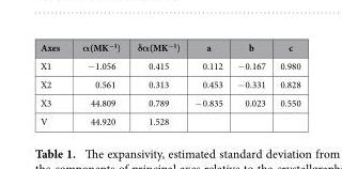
<table><thead><tr><td>Axes</td><td>α(MK<sup>−1</sup>)</td><td>δα(MK<sup>−1</sup>)</td><td>a</td><td>b</td><td>c</td></tr></thead><tbody><tr><td>X1</td><td>− 1.056</td><td>0.415</td><td>0.112</td><td>− 0.167</td><td>0.980</td></tr><tr><td>X2</td><td>0.561</td><td>0.313</td><td>0.453</td><td>− 0.331</td><td>0.828</td></tr><tr><td>X3</td><td>44.809</td><td>0.789</td><td>− 0.835</td><td>0.023</td><td>0.550</td></tr><tr><td>V</td><td>44.920</td><td>1.528</td><td></td><td></td><td></td></tr></tbody></table>